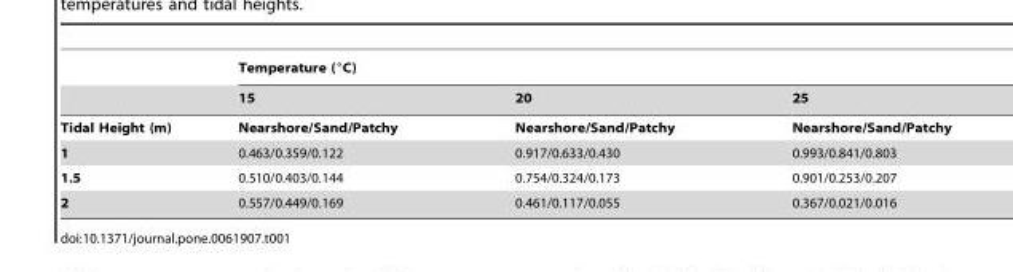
<table><thead><tr><td rowspan="2"></td><td colspan="3">Temperature (°C)</td></tr><tr><td>15</td><td>20</td><td>25</td></tr></thead><tbody><tr><td>Tidal Height (m)</td><td>Nearshore/Sand/Patchy</td><td>Nearshore/Sand/Patchy</td><td>Nearshore/Sand/Patchy</td></tr><tr><td>1</td><td>0.463/0.359/0.122</td><td>0.917/0.633/0.430</td><td>0.993/0.841/0.803</td></tr><tr><td>1.5</td><td>0.510/0.403/0.144</td><td>0.754/0.324/0.173</td><td>0.901/0.253/0.207</td></tr><tr><td>2</td><td>0.557/0.449/0.169</td><td>0.461/0.117/0.055</td><td>0.367/0.021/0.016</td></tr></tbody></table>